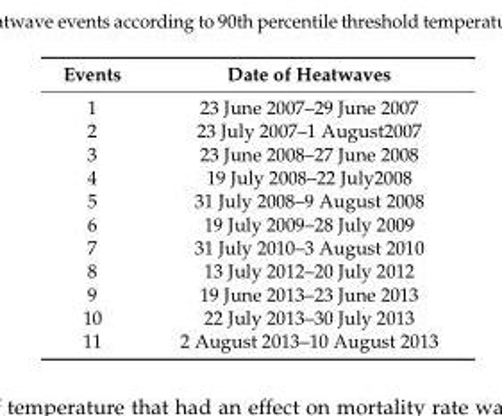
<table><thead><tr><td>Events</td><td>Date of Heatwaves</td></tr></thead><tbody><tr><td>1</td><td>23 June 2007–29 June 2007</td></tr><tr><td>2</td><td>23 July 2007–1 August2007</td></tr><tr><td>3</td><td>23 June 2008–27 June 2008</td></tr><tr><td>4</td><td>19 July 2008–22 July2008</td></tr><tr><td>5</td><td>31 July 2008–9 August 2008</td></tr><tr><td>6</td><td>19 July 2009–28 July 2009</td></tr><tr><td>7</td><td>31 July 2010–3 August 2010</td></tr><tr><td>8</td><td>13 July 2012–20 July 2012</td></tr><tr><td>9</td><td>19 June 2013–23 June 2013</td></tr><tr><td>10</td><td>22 July 2013–30 July 2013</td></tr><tr><td>11</td><td>2 August 2013–10 August 2013</td></tr></tbody></table>